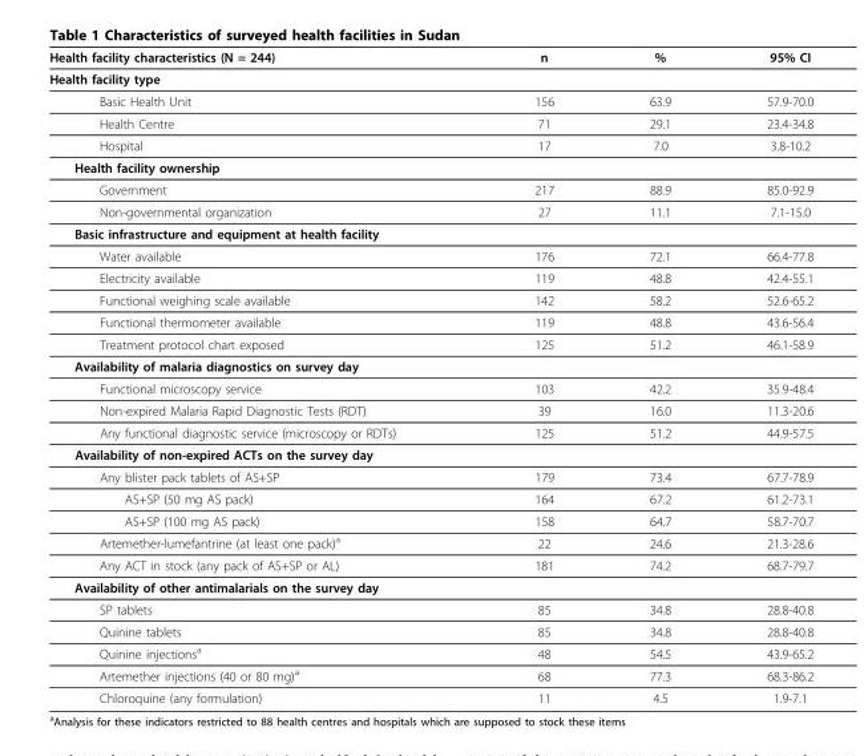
<table><thead><tr><td>Health facility characteristics (N = 244)</td><td>n</td><td>%</td><td>95% CI</td></tr></thead><tbody><tr><td colspan="4">Health facility type</td></tr><tr><td>Basic Health Unit</td><td>156</td><td>63.9</td><td>57.9-70.0</td></tr><tr><td>Health Centre</td><td>71</td><td>29.1</td><td>23.4-34.8</td></tr><tr><td>Hospital</td><td>17</td><td>7.0</td><td>3.8-10.2</td></tr><tr><td colspan="4">Health facility ownership</td></tr><tr><td>Government</td><td>217</td><td>88.9</td><td>85.0-92.9</td></tr><tr><td>Non-governmental organization</td><td>27</td><td>11.1</td><td>7.1-15.0</td></tr><tr><td colspan="4">Basic infrastructure and equipment at health facility</td></tr><tr><td>Water available</td><td>176</td><td>72.1</td><td>66.4-77.8</td></tr><tr><td>Electricity available</td><td>119</td><td>48.8</td><td>42.4-55.1</td></tr><tr><td>Functional weighing scale available</td><td>142</td><td>58.2</td><td>52.6-65.2</td></tr><tr><td>Functional thermometer available</td><td>119</td><td>48.8</td><td>43.6-56.4</td></tr><tr><td>Treatment protocol chart exposed</td><td>125</td><td>51.2</td><td>46.1-58.9</td></tr><tr><td colspan="4">Availability of malaria diagnostics on survey day</td></tr><tr><td>Functional microscopy service</td><td>103</td><td>42.2</td><td>35.9-48.4</td></tr><tr><td>Non-expired Malaria Rapid Diagnostic Tests (RDT)</td><td>39</td><td>16.0</td><td>11.3-20.6</td></tr><tr><td>Any functional diagnostic service (microscopy or RDTs)</td><td>125</td><td>51.2</td><td>44.9-57.5</td></tr><tr><td colspan="4">Availability of non-expired ACTs on the survey day</td></tr><tr><td>Any blister pack tablets of AS+SP</td><td>179</td><td>73.4</td><td>67.7-78.9</td></tr><tr><td>AS+SP (50 mg AS pack)</td><td>164</td><td>67.2</td><td>61.2-73.1</td></tr><tr><td>AS+SP (100 mg AS pack)</td><td>158</td><td>64.7</td><td>58.7-70.7</td></tr><tr><td>Artemether-lumefantrine (at least one pack)<sup>a</sup></td><td>22</td><td>24.6</td><td>21.3-28.6</td></tr><tr><td>Any ACT in stock (any pack of AS+SP or AL)</td><td>181</td><td>74.2</td><td>68.7-79.7</td></tr><tr><td colspan="4">Availability of other antimalarials on the survey day</td></tr><tr><td>SP tablets</td><td>85</td><td>34.8</td><td>28.8-40.8</td></tr><tr><td>Quinine tablets</td><td>85</td><td>34.8</td><td>28.8-40.8</td></tr><tr><td>Quinine injections<sup>a</sup></td><td>48</td><td>54.5</td><td>43.9-65.2</td></tr><tr><td>Artemether injections (40 or 80 mg)<sup>a</sup></td><td>68</td><td>77.3</td><td>68.3-86.2</td></tr><tr><td>Chloroquine (any formulation)</td><td>11</td><td>4.5</td><td>1.9-7.1</td></tr></tbody></table>